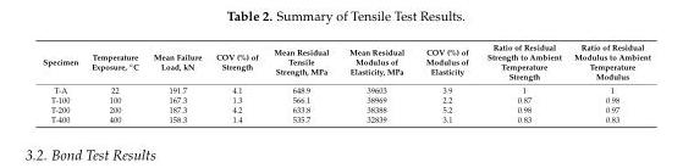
<table><thead><tr><td>Specimen</td><td>Temperature Exposure, ◦C</td><td>Mean Failure Load, kN</td><td>COV (%) of Strength</td><td>Mean Residual Tensile Strength, MPa</td><td>Mean Residual Modulus of Elasticity, MPa</td><td>COV (%) of Modulus of Elasticity</td><td>Ratio of Residual Strength to Ambient Temperature Strength</td><td>Ratio of Residual Modulus to Ambient Temperature Modulus</td></tr></thead><tbody><tr><td>T-A</td><td>22</td><td>191.7</td><td>4.1</td><td>648.9</td><td>39603</td><td>3.9</td><td>1</td><td>1</td></tr><tr><td>T-100</td><td>100</td><td>167.3</td><td>1.3</td><td>566.1</td><td>38969</td><td>2.2</td><td>0.87</td><td>0.98</td></tr><tr><td>T-200</td><td>200</td><td>187.3</td><td>4.2</td><td>633.8</td><td>38388</td><td>5.2</td><td>0.98</td><td>0.97</td></tr><tr><td>T-400</td><td>400</td><td>158.3</td><td>1.4</td><td>535.7</td><td>32839</td><td>3.1</td><td>0.83</td><td>0.83</td></tr></tbody></table>